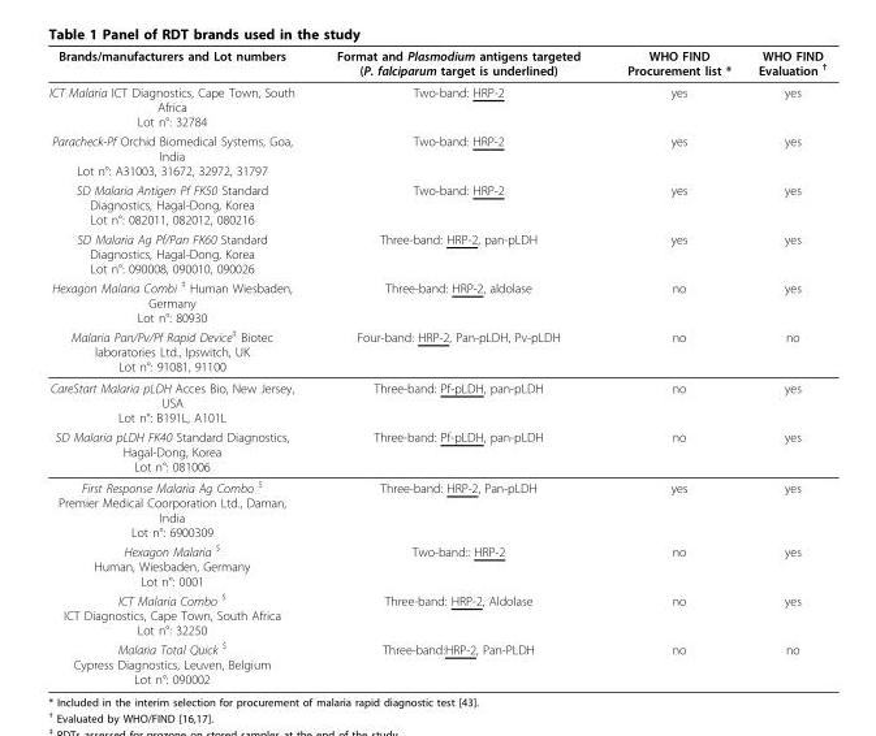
<table><thead><tr><td>Brands/manufacturers and Lot numbers</td><td>Format and Plasmodium antigens targeted (P. falciparum target is underlined)</td><td>WHO FIND Procurement list *</td><td>WHO FIND Evaluation <sup>†</sup></td></tr></thead><tbody><tr><td>ICT Malaria ICT Diagnostics, Cape Town, South Africa Lot n°: 32784</td><td>Two-band: HRP-2</td><td>yes</td><td>yes</td></tr><tr><td>Paracheck-Pf Orchid Biomedical Systems, Goa, India Lot n°: A31003, 31672, 32972, 31797</td><td>Two-band: HRP-2</td><td>yes</td><td>yes</td></tr><tr><td>SD Malaria Antigen Pf FK50 Standard Diagnostics, Hagal-Dong, Korea Lot n°: 082011, 082012, 080216</td><td>Two-band: HRP-2</td><td>yes</td><td>yes</td></tr><tr><td>SD Malaria Ag Pf/Pan FK60 Standard Diagnostics, Hagal-Dong, Korea Lot n°: 090008, 090010, 090026</td><td>Three-band: HRP-2, pan-pLDH</td><td>yes</td><td>yes</td></tr><tr><td>Hexagon Malaria Combi <sup>‡</sup> Human Wiesbaden, Germany Lot n°: 80930</td><td>Three-band: HRP-2, aldolase</td><td>no</td><td>yes</td></tr><tr><td>Malaria Pan/Pv/Pf Rapid Device<sup>‡</sup> Biotec laboratories Ltd., Ipswitch, UK Lot n°: 91081, 91100</td><td>Four-band: HRP-2, Pan-pLDH, Pv-pLDH</td><td>no</td><td>no</td></tr><tr><td>CareStart Malaria pLDH Acces Bio, New Jersey, USA Lot n°: B191L, A101L</td><td>Three-band: Pf-pLDH, pan-pLDH</td><td>no</td><td>yes</td></tr><tr><td>SD Malaria pLDH FK40 Standard Diagnostics, Hagal-Dong, Korea Lot n°: 081006</td><td>Three-band: Pf-pLDH, pan-pLDH</td><td>no</td><td>yes</td></tr><tr><td>First Response Malaria Ag Combo <sup>$</sup> Premier Medical Coorporation Ltd., Daman, India Lot n°: 6900309</td><td>Three-band: HRP-2, Pan-pLDH</td><td>yes</td><td>yes</td></tr><tr><td>Hexagon Malaria <sup>$</sup> Human, Wiesbaden, Germany Lot n°: 0001</td><td>Two-band:: HRP-2</td><td>no</td><td>yes</td></tr><tr><td>ICT Malaria Combo <sup>$</sup> ICT Diagnostics, Cape Town, South Africa Lot n°: 32250</td><td>Three-band: HRP-2, Aldolase</td><td>no</td><td>yes</td></tr><tr><td>Malaria Total Quick <sup>$</sup> Cypress Diagnostics, Leuven, Belgium Lot n°: 090002</td><td>Three-band:HRP-2, Pan-PLDH</td><td>no</td><td>no</td></tr></tbody></table>